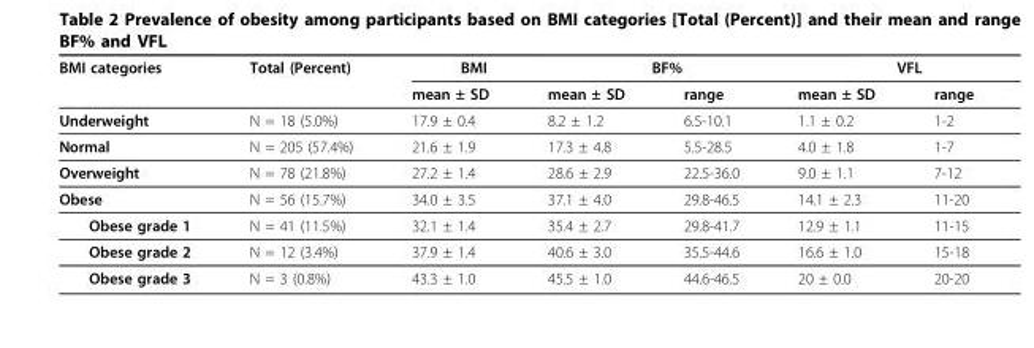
<table><thead><tr><td rowspan="2">BMI categories</td><td rowspan="2">Total (Percent)</td><td rowspan="2">BMI mean ± SD</td><td colspan="2">BF%</td><td colspan="2">VFL</td></tr><tr><td>mean ± SD</td><td>range</td><td>mean ± SD</td><td>range</td></tr></thead><tbody><tr><td>Underweight</td><td>N = 18 (5.0%)</td><td>17.9 ± 0.4</td><td>8.2 ± 1.2</td><td>6.5-10.1</td><td>1.1 ± 0.2</td><td>1-2</td></tr><tr><td>Normal</td><td>N = 205 (57.4%)</td><td>21.6 ± 1.9</td><td>17.3 ± 4.8</td><td>5.5-28.5</td><td>4.0 ± 1.8</td><td>1-7</td></tr><tr><td>Overweight</td><td>N = 78 (21.8%)</td><td>27.2 ± 1.4</td><td>28.6 ± 2.9</td><td>22.5-36.0</td><td>9.0 ± 1.1</td><td>7-12</td></tr><tr><td>Obese</td><td>N = 56 (15.7%)</td><td>34.0 ± 3.5</td><td>37.1 ± 4.0</td><td>29.8-46.5</td><td>14.1 ± 2.3</td><td>11-20</td></tr><tr><td>Obese grade 1</td><td>N = 41 (11.5%)</td><td>32.1 ± 1.4</td><td>35.4 ± 2.7</td><td>29.8-41.7</td><td>12.9 ± 1.1</td><td>11-15</td></tr><tr><td>Obese grade 2</td><td>N = 12 (3.4%)</td><td>37.9 ± 1.4</td><td>40.6 ± 3.0</td><td>35.5-44.6</td><td>16.6 ± 1.0</td><td>15-18</td></tr><tr><td>Obese grade 3</td><td>N = 3 (0.8%)</td><td>43.3 ± 1.0</td><td>45.5 ± 1.0</td><td>44.6-46.5</td><td>20 ± 0.0</td><td>20-20</td></tr></tbody></table>